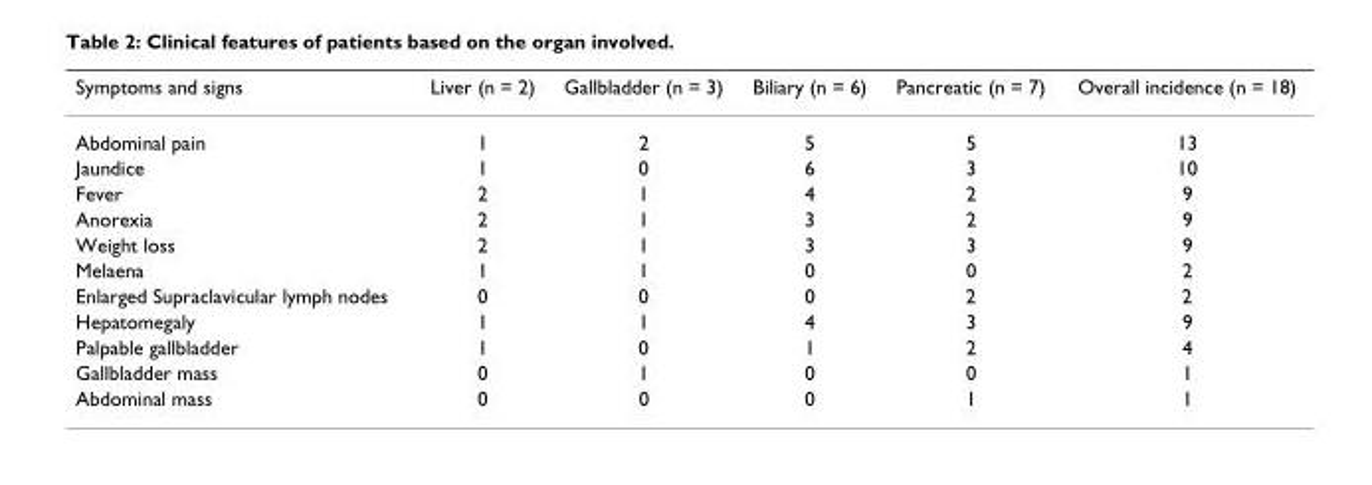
<table><thead><tr><td>Symptoms and signs</td><td>Liver (n = 2)</td><td>Gallbladder (n = 3)</td><td>Biliary (n = 6)</td><td>Pancreatic (n = 7)</td><td>Overall incidence (n = 18)</td></tr></thead><tbody><tr><td>Abdominal pain</td><td>1</td><td>2</td><td>5</td><td>5</td><td>13</td></tr><tr><td>Jaundice</td><td>1</td><td>0</td><td>6</td><td>3</td><td>10</td></tr><tr><td>Fever</td><td>2</td><td>1</td><td>4</td><td>2</td><td>9</td></tr><tr><td>Anorexia</td><td>2</td><td>1</td><td>3</td><td>2</td><td>9</td></tr><tr><td>Weight loss</td><td>2</td><td>1</td><td>3</td><td>3</td><td>9</td></tr><tr><td>Melaena</td><td>1</td><td>1</td><td>0</td><td>0</td><td>2</td></tr><tr><td>Enlarged Supraclavicular lymph nodes</td><td>0</td><td>0</td><td>0</td><td>2</td><td>2</td></tr><tr><td>Hepatomegaly</td><td>1</td><td>1</td><td>4</td><td>3</td><td>9</td></tr><tr><td>Palpable gallbladder</td><td>1</td><td>0</td><td>1</td><td>2</td><td>4</td></tr><tr><td>Gallbladder mass</td><td>0</td><td>1</td><td>0</td><td>0</td><td>1</td></tr><tr><td>Abdominal mass</td><td>0</td><td>0</td><td>0</td><td>1</td><td>1</td></tr></tbody></table>